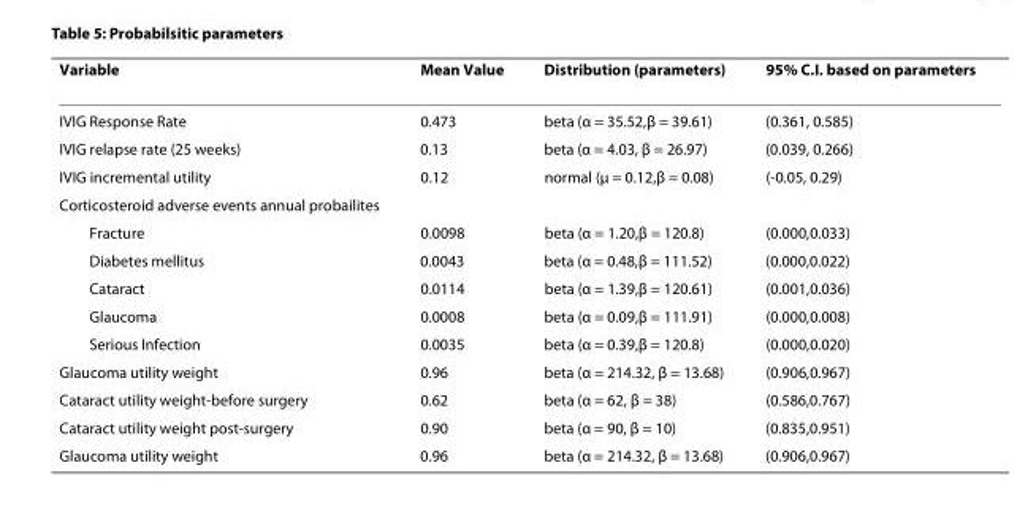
<table><thead><tr><td>Variable</td><td>Mean Value</td><td>Distribution (parameters)</td><td>95% C.I. based on parameters</td></tr></thead><tbody><tr><td>IVIG Response Rate</td><td>0.473</td><td>beta (α = 35.52,β = 39.61)</td><td>(0.361, 0.585)</td></tr><tr><td>IVIG relapse rate (25 weeks)</td><td>0.13</td><td>beta (α = 4.03, β = 26.97)</td><td>(0.039, 0.266)</td></tr><tr><td>IVIG incremental utility</td><td>0.12</td><td>normal (μ = 0.12,β = 0.08)</td><td>(-0.05, 0.29)</td></tr><tr><td colspan="4">Corticosteroid adverse events annual probailites</td></tr><tr><td>Fracture</td><td>0.0098</td><td>beta (α = 1.20,β = 120.8)</td><td>(0.000,0.033)</td></tr><tr><td>Diabetes mellitus</td><td>0.0043</td><td>beta (α = 0.48,β = 111.52)</td><td>(0.000,0.022)</td></tr><tr><td>Cataract</td><td>0.0114</td><td>beta (α = 1.39,β = 120.61)</td><td>(0.001,0.036)</td></tr><tr><td>Glaucoma</td><td>0.0008</td><td>beta (α = 0.09,β = 111.91)</td><td>(0.000,0.008)</td></tr><tr><td>Serious Infection</td><td>0.0035</td><td>beta (α = 0.39,β = 120.8)</td><td>(0.000,0.020)</td></tr><tr><td>Glaucoma utility weight</td><td>0.96</td><td>beta (α = 214.32, β = 13.68)</td><td>(0.906,0.967)</td></tr><tr><td>Cataract utility weight-before surgery</td><td>0.62</td><td>beta (α = 62, β = 38)</td><td>(0.586,0.767)</td></tr><tr><td>Cataract utility weight post-surgery</td><td>0.90</td><td>beta (α = 90, β = 10)</td><td>(0.835,0.951)</td></tr><tr><td>Glaucoma utility weight</td><td>0.96</td><td>beta (α = 214.32, β = 13.68)</td><td>(0.906,0.967)</td></tr></tbody></table>